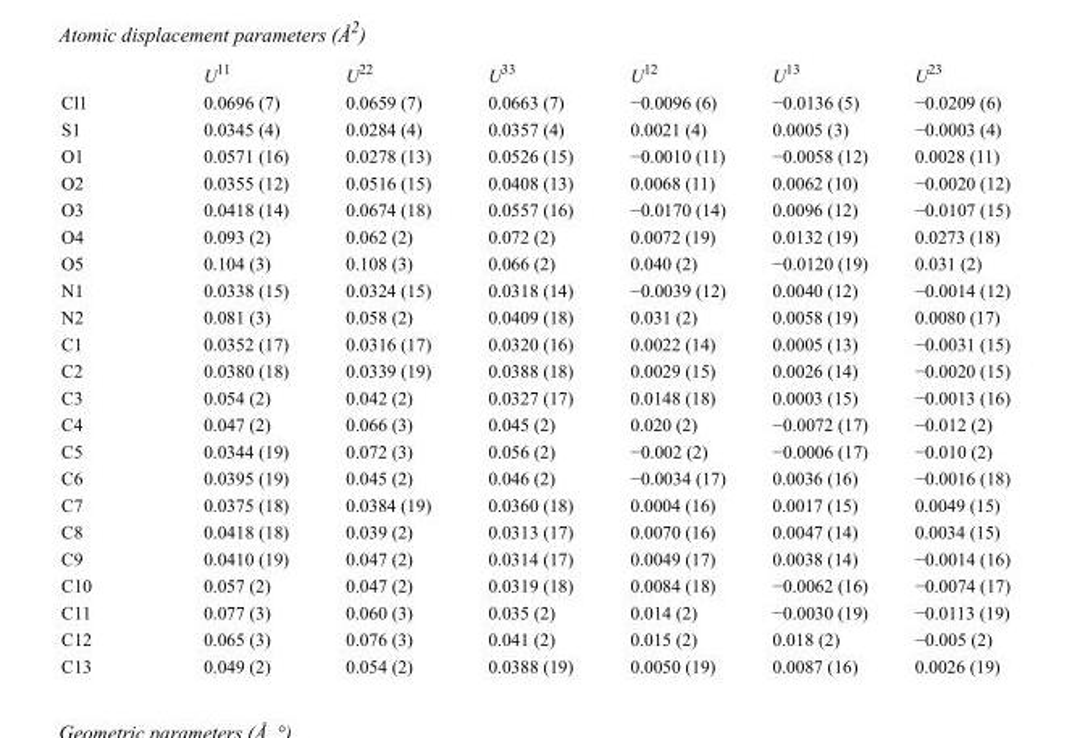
<table><thead><tr><td></td><td>U<sup>11</sup></td><td>U<sup>22</sup></td><td>U<sup>33</sup></td><td>U<sup>12</sup></td><td>U<sup>13</sup></td><td>U<sup>23</sup></td></tr></thead><tbody><tr><td>Cl1</td><td>0.0696 (7)</td><td>0.0659 (7)</td><td>0.0663 (7)</td><td>−0.0096 (6)</td><td>−0.0136 (5)</td><td>−0.0209 (6)</td></tr><tr><td>S1</td><td>0.0345 (4)</td><td>0.0284 (4)</td><td>0.0357 (4)</td><td>0.0021 (4)</td><td>0.0005 (3)</td><td>−0.0003 (4)</td></tr><tr><td>O1</td><td>0.0571 (16)</td><td>0.0278 (13)</td><td>0.0526 (15)</td><td>−0.0010 (11)</td><td>−0.0058 (12)</td><td>0.0028 (11)</td></tr><tr><td>O2</td><td>0.0355 (12)</td><td>0.0516 (15)</td><td>0.0408 (13)</td><td>0.0068 (11)</td><td>0.0062 (10)</td><td>−0.0020 (12)</td></tr><tr><td>O3</td><td>0.0418 (14)</td><td>0.0674 (18)</td><td>0.0557 (16)</td><td>−0.0170 (14)</td><td>0.0096 (12)</td><td>−0.0107 (15)</td></tr><tr><td>O4</td><td>0.093 (2)</td><td>0.062 (2)</td><td>0.072 (2)</td><td>0.0072 (19)</td><td>0.0132 (19)</td><td>0.0273 (18)</td></tr><tr><td>O5</td><td>0.104 (3)</td><td>0.108 (3)</td><td>0.066 (2)</td><td>0.040 (2)</td><td>−0.0120 (19)</td><td>0.031 (2)</td></tr><tr><td>N1</td><td>0.0338 (15)</td><td>0.0324 (15)</td><td>0.0318 (14)</td><td>−0.0039 (12)</td><td>0.0040 (12)</td><td>−0.0014 (12)</td></tr><tr><td>N2</td><td>0.081 (3)</td><td>0.058 (2)</td><td>0.0409 (18)</td><td>0.031 (2)</td><td>0.0058 (19)</td><td>0.0080 (17)</td></tr><tr><td>C1</td><td>0.0352 (17)</td><td>0.0316 (17)</td><td>0.0320 (16)</td><td>0.0022 (14)</td><td>0.0005 (13)</td><td>−0.0031 (15)</td></tr><tr><td>C2</td><td>0.0380 (18)</td><td>0.0339 (19)</td><td>0.0388 (18)</td><td>0.0029 (15)</td><td>0.0026 (14)</td><td>−0.0020 (15)</td></tr><tr><td>C3</td><td>0.054 (2)</td><td>0.042 (2)</td><td>0.0327 (17)</td><td>0.0148 (18)</td><td>0.0003 (15)</td><td>−0.0013 (16)</td></tr><tr><td>C4</td><td>0.047 (2)</td><td>0.066 (3)</td><td>0.045 (2)</td><td>0.020 (2)</td><td>−0.0072 (17)</td><td>−0.012 (2)</td></tr><tr><td>C5</td><td>0.0344 (19)</td><td>0.072 (3)</td><td>0.056 (2)</td><td>−0.002 (2)</td><td>−0.0006 (17)</td><td>−0.010 (2)</td></tr><tr><td>C6</td><td>0.0395 (19)</td><td>0.045 (2)</td><td>0.046 (2)</td><td>−0.0034 (17)</td><td>0.0036 (16)</td><td>−0.0016 (18)</td></tr><tr><td>C7</td><td>0.0375 (18)</td><td>0.0384 (19)</td><td>0.0360 (18)</td><td>0.0004 (16)</td><td>0.0017 (15)</td><td>0.0049 (15)</td></tr><tr><td>C8</td><td>0.0418 (18)</td><td>0.039 (2)</td><td>0.0313 (17)</td><td>0.0070 (16)</td><td>0.0047 (14)</td><td>0.0034 (15)</td></tr><tr><td>C9</td><td>0.0410 (19)</td><td>0.047 (2)</td><td>0.0314 (17)</td><td>0.0049 (17)</td><td>0.0038 (14)</td><td>−0.0014 (16)</td></tr><tr><td>C10</td><td>0.057 (2)</td><td>0.047 (2)</td><td>0.0319 (18)</td><td>0.0084 (18)</td><td>−0.0062 (16)</td><td>−0.0074 (17)</td></tr><tr><td>C11</td><td>0.077 (3)</td><td>0.060 (3)</td><td>0.035 (2)</td><td>0.014 (2)</td><td>−0.0030 (19)</td><td>−0.0113 (19)</td></tr><tr><td>C12</td><td>0.065 (3)</td><td>0.076 (3)</td><td>0.041 (2)</td><td>0.015 (2)</td><td>0.018 (2)</td><td>−0.005 (2)</td></tr><tr><td>C13</td><td>0.049 (2)</td><td>0.054 (2)</td><td>0.0388 (19)</td><td>0.0050 (19)</td><td>0.0087 (16)</td><td>0.0026 (19)</td></tr></tbody></table>